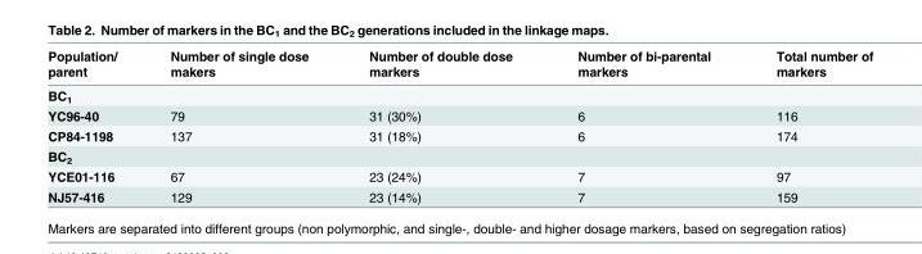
<table><thead><tr><td>Population/ parent</td><td>Number of single dose makers</td><td>Number of double dose markers</td><td>Number of bi-parental markers</td><td>Total number of markers</td></tr></thead><tbody><tr><td colspan="5">BC<sub>1</sub></td></tr><tr><td>YC96-40</td><td>79</td><td>31 (30%)</td><td>6</td><td>116</td></tr><tr><td>CP84-1198</td><td>137</td><td>31 (18%)</td><td>6</td><td>174</td></tr><tr><td colspan="5">BC<sub>2</sub></td></tr><tr><td>YCE01-116</td><td>67</td><td>23 (24%)</td><td>7</td><td>97</td></tr><tr><td>NJ57-416</td><td>129</td><td>23 (14%)</td><td>7</td><td>159</td></tr></tbody></table>